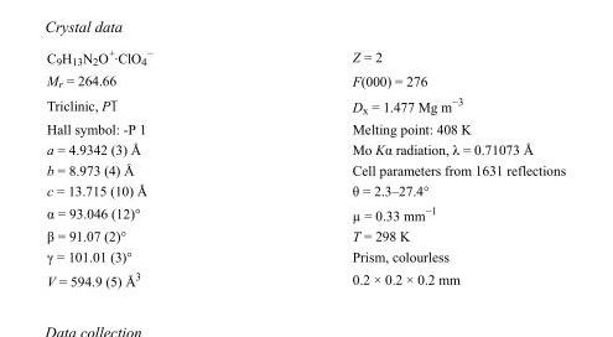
<table><tbody><tr><td>C<sub>9</sub>H<sub>13</sub>N<sub>2</sub>O<sup>+</sup>·ClO<sub>4</sub> <sup>−</sup></td><td>Z = 2</td></tr><tr><td>M<sub>r</sub> = 264.66</td><td>F(000) = 276</td></tr><tr><td>Triclinic, P1</td><td>D<sub>x</sub> = 1.477 Mg m<sup>−3</sup></td></tr><tr><td>Hall symbol: -P 1</td><td>Melting point: 408 K</td></tr><tr><td>a = 4.9342 (3) Å</td><td>Mo Kα radiation, λ = 0.71073 Å</td></tr><tr><td>b = 8.973 (4) Å</td><td>Cell parameters from 1631 reflections</td></tr><tr><td>c = 13.715 (10) Å</td><td>θ = 2.3–27.4°</td></tr><tr><td>α = 93.046 (12)°</td><td>µ = 0.33 mm<sup>−1</sup></td></tr><tr><td>β = 91.07 (2)°</td><td>T = 298 K</td></tr><tr><td>γ = 101.01 (3)°</td><td>Prism, colourless</td></tr><tr><td>V = 594.9 (5) Å<sup>3</sup></td><td>0.2 × 0.2 × 0.2 mm</td></tr></tbody></table>